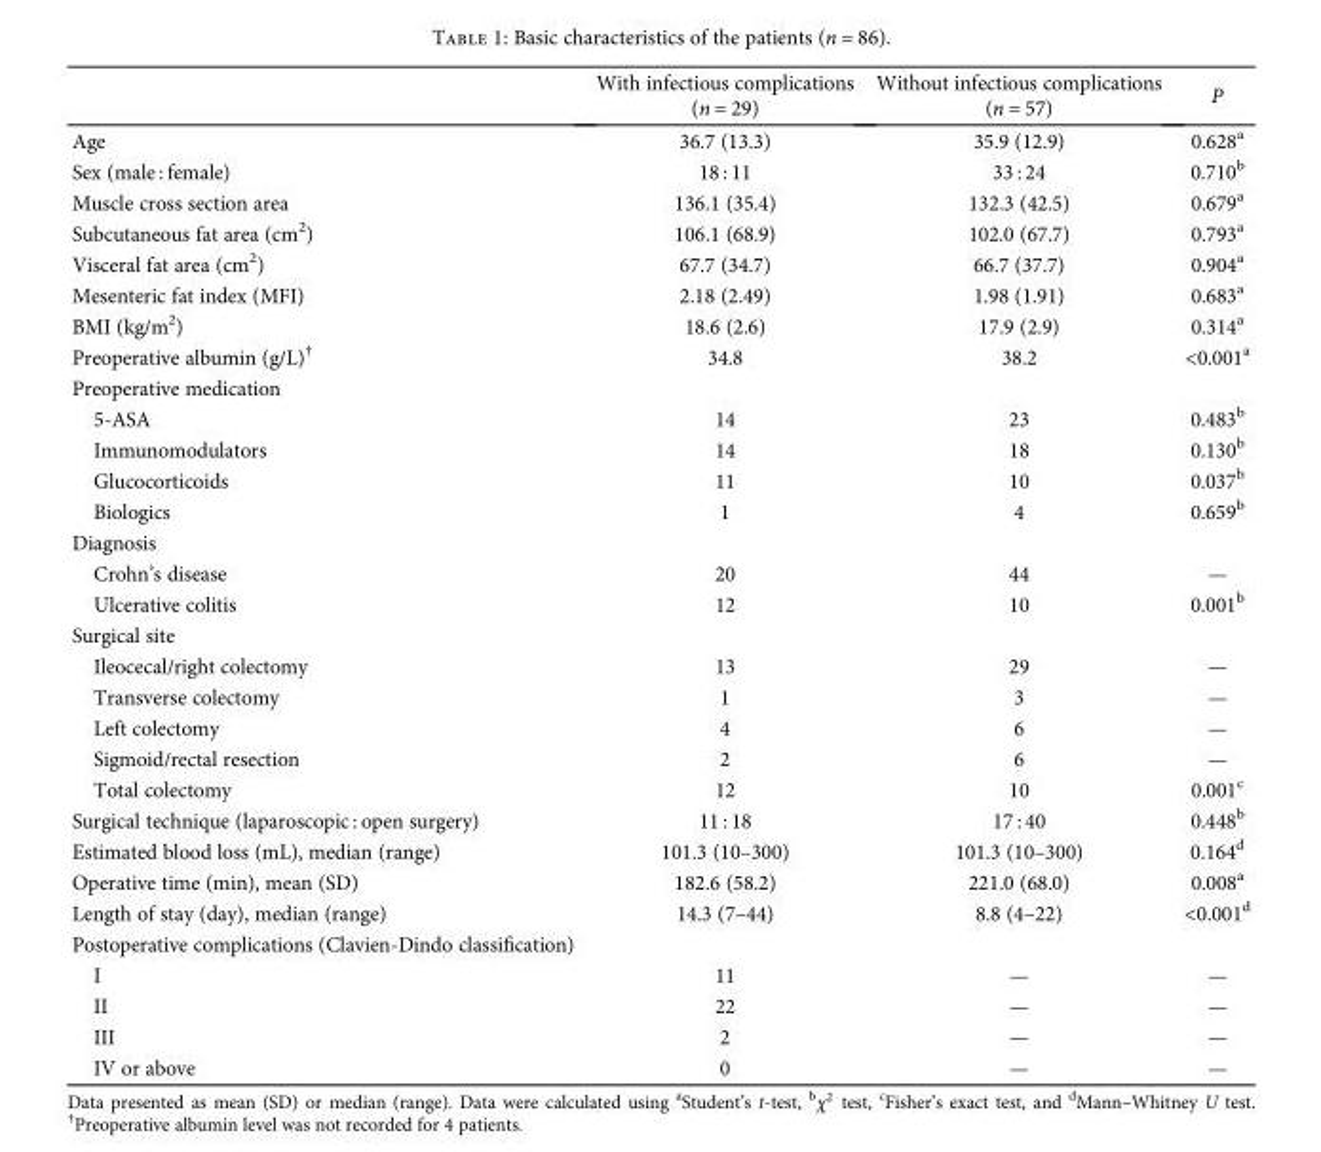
<table><thead><tr><td></td><td>With infectious complications (n = 29)</td><td>Without infectious complications (n = 57)</td><td>P</td></tr></thead><tbody><tr><td>Age</td><td>36.7 (13.3)</td><td>35.9 (12.9)</td><td>0.628<sup>a</sup></td></tr><tr><td>Sex (male : female)</td><td>18 : 11</td><td>33 : 24</td><td>0.710<sup>b</sup></td></tr><tr><td>Muscle cross section area</td><td>136.1 (35.4)</td><td>132.3 (42.5)</td><td>0.679<sup>a</sup></td></tr><tr><td>Subcutaneous fat area (cm<sup>2</sup>)</td><td>106.1 (68.9)</td><td>102.0 (67.7)</td><td>0.793<sup>a</sup></td></tr><tr><td>Visceral fat area (cm<sup>2</sup>)</td><td>67.7 (34.7)</td><td>66.7 (37.7)</td><td>0.904<sup>a</sup></td></tr><tr><td>Mesenteric fat index (MFI)</td><td>2.18 (2.49)</td><td>1.98 (1.91)</td><td>0.683<sup>a</sup></td></tr><tr><td>BMI (kg/m<sup>2</sup>)</td><td>18.6 (2.6)</td><td>17.9 (2.9)</td><td>0.314<sup>a</sup></td></tr><tr><td>Preoperative albumin (g/L)<sup>†</sup></td><td>34.8</td><td>38.2</td><td>&lt;0.001<sup>a</sup></td></tr><tr><td colspan="4">Preoperative medication</td></tr><tr><td>5-ASA</td><td>14</td><td>23</td><td>0.483<sup>b</sup></td></tr><tr><td>Immunomodulators</td><td>14</td><td>18</td><td>0.130<sup>b</sup></td></tr><tr><td>Glucocorticoids</td><td>11</td><td>10</td><td>0.037<sup>b</sup></td></tr><tr><td>Biologics</td><td>1</td><td>4</td><td>0.659<sup>b</sup></td></tr><tr><td colspan="4">Diagnosis</td></tr><tr><td>Crohn’s disease</td><td>20</td><td>44</td><td>—</td></tr><tr><td>Ulcerative colitis</td><td>12</td><td>10</td><td>0.001<sup>b</sup></td></tr><tr><td colspan="4">Surgical site</td></tr><tr><td>Ileocecal/right colectomy</td><td>13</td><td>29</td><td>—</td></tr><tr><td>Transverse colectomy</td><td>1</td><td>3</td><td>—</td></tr><tr><td>Left colectomy</td><td>4</td><td>6</td><td>—</td></tr><tr><td>Sigmoid/rectal resection</td><td>2</td><td>6</td><td>—</td></tr><tr><td>Total colectomy</td><td>12</td><td>10</td><td>0.001<sup>c</sup></td></tr><tr><td>Surgical technique (laparoscopic : open surgery)</td><td>11 : 18</td><td>17 : 40</td><td>0.448<sup>b</sup></td></tr><tr><td>Estimated blood loss (mL), median (range)</td><td>101.3 (10–300)</td><td>101.3 (10–300)</td><td>0.164<sup>d</sup></td></tr><tr><td>Operative time (min), mean (SD)</td><td>182.6 (58.2)</td><td>221.0 (68.0)</td><td>0.008<sup>a</sup></td></tr><tr><td>Length of stay (day), median (range)</td><td>14.3 (7–44)</td><td>8.8 (4–22)</td><td>&lt;0.001<sup>d</sup></td></tr><tr><td colspan="4">Postoperative complications (Clavien-Dindo classification)</td></tr><tr><td>I</td><td>11</td><td>—</td><td>—</td></tr><tr><td>II</td><td>22</td><td>—</td><td>—</td></tr><tr><td>III</td><td>2</td><td>—</td><td>—</td></tr><tr><td>IV or above</td><td>0</td><td>—</td><td>—</td></tr></tbody></table>